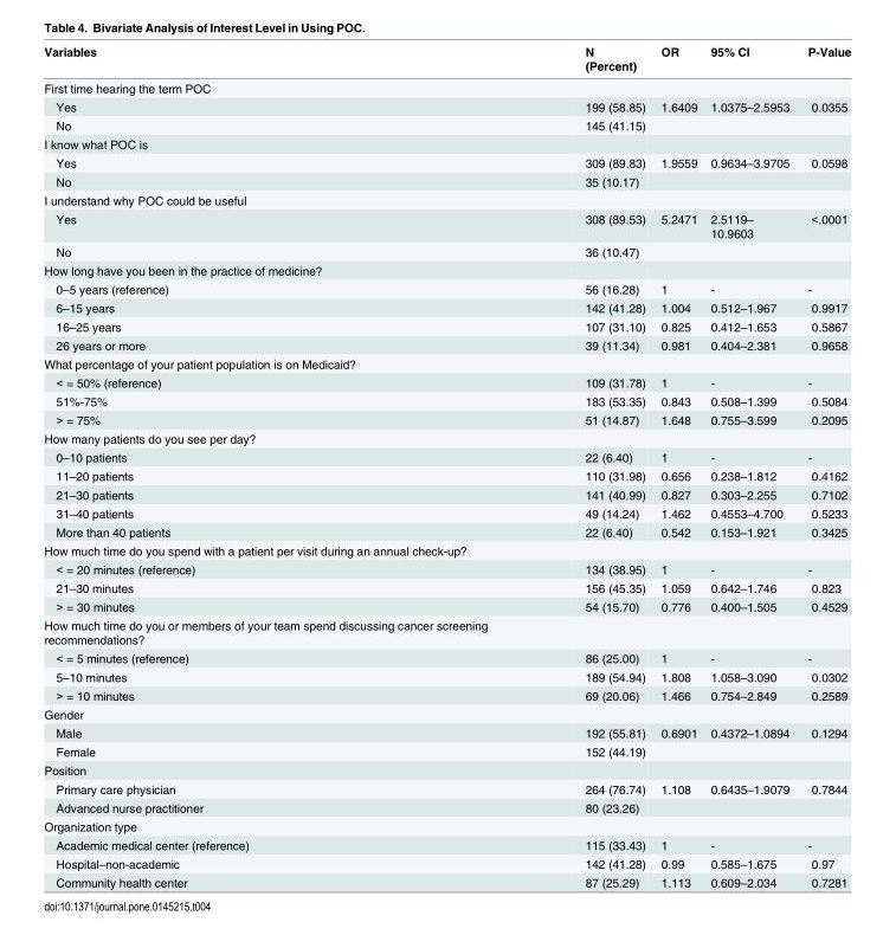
<table><thead><tr><td>Variables</td><td>N (Percent)</td><td>OR</td><td>95% CI</td><td>P-Value</td></tr></thead><tbody><tr><td colspan="5">First time hearing the term POC</td></tr><tr><td>Yes</td><td>199 (58.85)</td><td>1.6409</td><td>1.0375–2.5953</td><td>0.0355</td></tr><tr><td>No</td><td>145 (41.15)</td><td></td><td></td><td></td></tr><tr><td colspan="5">I know what POC is</td></tr><tr><td>Yes</td><td>309 (89.83)</td><td>1.9559</td><td>0.9634–3.9705</td><td>0.0598</td></tr><tr><td>No</td><td>35 (10.17)</td><td></td><td></td><td></td></tr><tr><td colspan="5">I understand why POC could be useful</td></tr><tr><td>Yes</td><td>308 (89.53)</td><td>5.2471</td><td>2.5119– 10.9603</td><td>&lt;.0001</td></tr><tr><td>No</td><td>36 (10.47)</td><td></td><td></td><td></td></tr><tr><td colspan="5">How long have you been in the practice of medicine?</td></tr><tr><td>0–5 years (reference)</td><td>56 (16.28)</td><td>1</td><td>-</td><td>-</td></tr><tr><td>6–15 years</td><td>142 (41.28)</td><td>1.004</td><td>0.512–1.967</td><td>0.9917</td></tr><tr><td>16–25 years</td><td>107 (31.10)</td><td>0.825</td><td>0.412–1.653</td><td>0.5867</td></tr><tr><td>26 years or more</td><td>39 (11.34)</td><td>0.981</td><td>0.404–2.381</td><td>0.9658</td></tr><tr><td colspan="5">What percentage of your patient population is on Medicaid?</td></tr><tr><td>&lt; = 50% (reference)</td><td>109 (31.78)</td><td>1</td><td>-</td><td>-</td></tr><tr><td>51%-75%</td><td>183 (53.35)</td><td>0.843</td><td>0.508–1.399</td><td>0.5084</td></tr><tr><td>&gt; = 75%</td><td>51 (14.87)</td><td>1.648</td><td>0.755–3.599</td><td>0.2095</td></tr><tr><td colspan="5">How many patients do you see per day?</td></tr><tr><td>0–10 patients</td><td>22 (6.40)</td><td>1</td><td>-</td><td>-</td></tr><tr><td>11–20 patients</td><td>110 (31.98)</td><td>0.656</td><td>0.238–1.812</td><td>0.4162</td></tr><tr><td>21–30 patients</td><td>141 (40.99)</td><td>0.827</td><td>0.303–2.255</td><td>0.7102</td></tr><tr><td>31–40 patients</td><td>49 (14.24)</td><td>1.462</td><td>0.4553–4.700</td><td>0.5233</td></tr><tr><td>More than 40 patients</td><td>22 (6.40)</td><td>0.542</td><td>0.153–1.921</td><td>0.3425</td></tr><tr><td colspan="5">How much time do you spend with a patient per visit during an annual check-up?</td></tr><tr><td>&lt; = 20 minutes (reference)</td><td>134 (38.95)</td><td>1</td><td>-</td><td>-</td></tr><tr><td>21–30 minutes</td><td>156 (45.35)</td><td>1.059</td><td>0.642–1.746</td><td>0.823</td></tr><tr><td>&gt; = 30 minutes</td><td>54 (15.70)</td><td>0.776</td><td>0.400–1.505</td><td>0.4529</td></tr><tr><td colspan="5">How much time do you or members of your team spend discussing cancer screening recommendations?</td></tr><tr><td>&lt; = 5 minutes (reference)</td><td>86 (25.00)</td><td>1</td><td>-</td><td>-</td></tr><tr><td>5–10 minutes</td><td>189 (54.94)</td><td>1.808</td><td>1.058–3.090</td><td>0.0302</td></tr><tr><td>&gt; = 10 minutes</td><td>69 (20.06)</td><td>1.466</td><td>0.754–2.849</td><td>0.2589</td></tr><tr><td colspan="5">Gender</td></tr><tr><td>Male</td><td>192 (55.81)</td><td>0.6901</td><td>0.4372–1.0894</td><td>0.1294</td></tr><tr><td>Female</td><td>152 (44.19)</td><td></td><td></td><td></td></tr><tr><td colspan="5">Position</td></tr><tr><td>Primary care physician</td><td>264 (76.74)</td><td>1.108</td><td>0.6435–1.9079</td><td>0.7844</td></tr><tr><td>Advanced nurse practitioner</td><td>80 (23.26)</td><td></td><td></td><td></td></tr><tr><td colspan="5">Organization type</td></tr><tr><td>Academic medical center (reference)</td><td>115 (33.43)</td><td>1</td><td>-</td><td>-</td></tr><tr><td>Hospital–non-academic</td><td>142 (41.28)</td><td>0.99</td><td>0.585–1.675</td><td>0.97</td></tr><tr><td>Community health center</td><td>87 (25.29)</td><td>1.113</td><td>0.609–2.034</td><td>0.7281</td></tr></tbody></table>